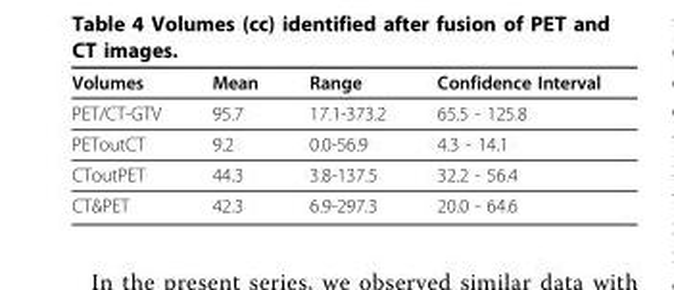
<table><thead><tr><td>Volumes</td><td>Mean</td><td>Range</td><td>Confidence Interval</td></tr></thead><tbody><tr><td>PET/CT-GTV</td><td>95.7</td><td>17.1-373.2</td><td>65.5 - 125.8</td></tr><tr><td>PEToutCT</td><td>9.2</td><td>0.0-56.9</td><td>4.3 - 14.1</td></tr><tr><td>CToutPET</td><td>44.3</td><td>3.8-137.5</td><td>32.2 - 56.4</td></tr><tr><td>CT&amp;PET</td><td>42.3</td><td>6.9-297.3</td><td>20.0 - 64.6</td></tr></tbody></table>